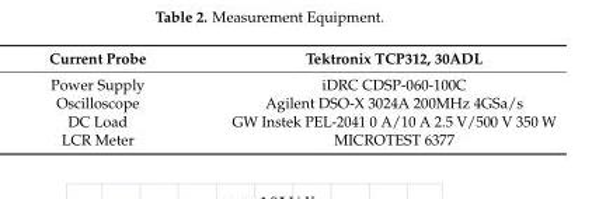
<table><thead><tr><td>Current Probe</td><td>Tektronix TCP312, 30ADL</td></tr></thead><tbody><tr><td>Power Supply</td><td>iDRC CDSP-060-100C</td></tr><tr><td>Oscilloscope</td><td>Agilent DSO-X 3024A 200MHz 4GSa/s</td></tr><tr><td>DC Load</td><td>GW Instek PEL-2041 0 A/10 A 2.5 V/500 V 350 W</td></tr><tr><td>LCR Meter</td><td>MICROTEST 6377</td></tr></tbody></table>